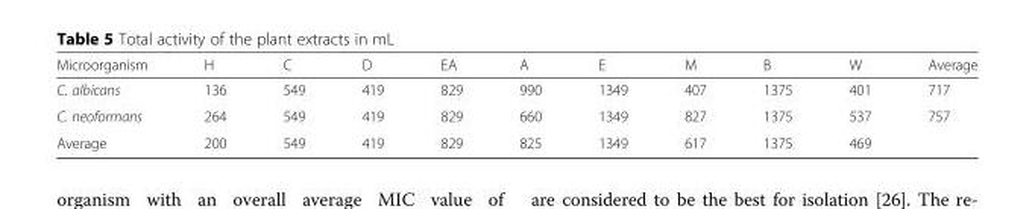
<table><thead><tr><td>Microorganism</td><td>H</td><td>C</td><td>D</td><td>EA</td><td>A</td><td>E</td><td>M</td><td>B</td><td>W</td><td>Average</td></tr></thead><tbody><tr><td>C. albicans</td><td>136</td><td>549</td><td>419</td><td>829</td><td>990</td><td>1349</td><td>407</td><td>1375</td><td>401</td><td>717</td></tr><tr><td>C. neoformans</td><td>264</td><td>549</td><td>419</td><td>829</td><td>660</td><td>1349</td><td>827</td><td>1375</td><td>537</td><td>757</td></tr><tr><td>Average</td><td>200</td><td>549</td><td>419</td><td>829</td><td>825</td><td>1349</td><td>617</td><td>1375</td><td>469</td><td></td></tr></tbody></table>